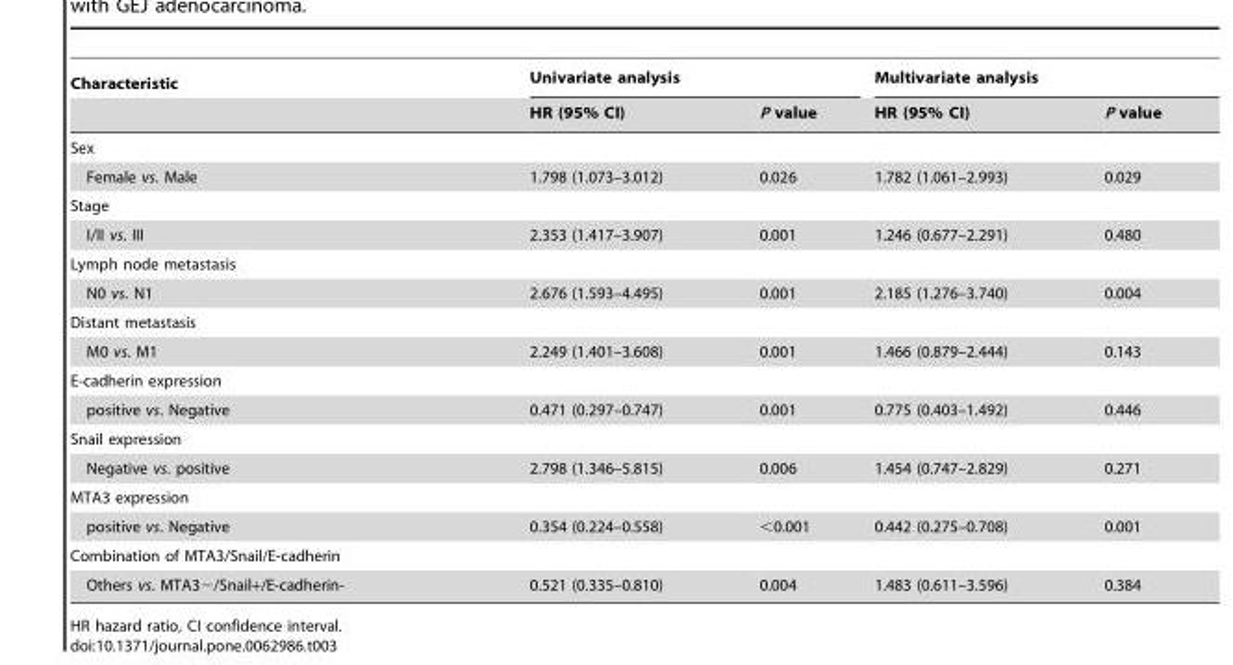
<table><thead><tr><td rowspan="2">Characteristic</td><td colspan="2">Univariate analysis</td><td colspan="2">Multivariate analysis</td></tr><tr><td>HR (95% CI)</td><td>P value</td><td>HR (95% CI)</td><td>P value</td></tr></thead><tbody><tr><td colspan="5">Sex</td></tr><tr><td>Female vs. Male</td><td>1.798 (1.073–3.012)</td><td>0.026</td><td>1.782 (1.061–2.993)</td><td>0.029</td></tr><tr><td colspan="5">Stage</td></tr><tr><td>I/II vs. III</td><td>2.353 (1.417–3.907)</td><td>0.001</td><td>1.246 (0.677–2.291)</td><td>0.480</td></tr><tr><td colspan="5">Lymph node metastasis</td></tr><tr><td>N0 vs. N1</td><td>2.676 (1.593–4.495)</td><td>0.001</td><td>2.185 (1.276–3.740)</td><td>0.004</td></tr><tr><td colspan="5">Distant metastasis</td></tr><tr><td>M0 vs. M1</td><td>2.249 (1.401–3.608)</td><td>0.001</td><td>1.466 (0.879–2.444)</td><td>0.143</td></tr><tr><td colspan="5">E-cadherin expression</td></tr><tr><td>positive vs. Negative</td><td>0.471 (0.297–0.747)</td><td>0.001</td><td>0.775 (0.403–1.492)</td><td>0.446</td></tr><tr><td colspan="5">Snail expression</td></tr><tr><td>Negative vs. positive</td><td>2.798 (1.346–5.815)</td><td>0.006</td><td>1.454 (0.747–2.829)</td><td>0.271</td></tr><tr><td colspan="5">MTA3 expression</td></tr><tr><td>positive vs. Negative</td><td>0.354 (0.224–0.558)</td><td>&lt;0.001</td><td>0.442 (0.275–0.708)</td><td>0.001</td></tr><tr><td colspan="5">Combination of MTA3/Snail/E-cadherin</td></tr><tr><td>Others vs. MTA3−/Snail+/E-cadherin-</td><td>0.521 (0.335–0.810)</td><td>0.004</td><td>1.483 (0.611–3.596)</td><td>0.384</td></tr></tbody></table>